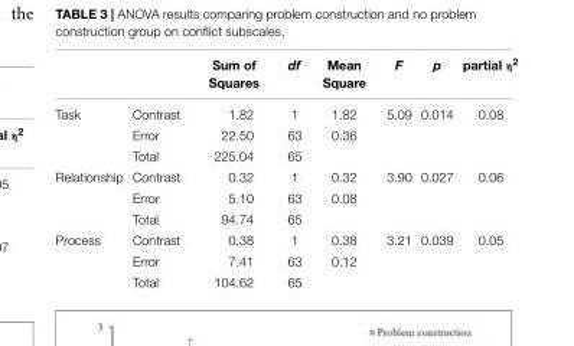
<table><thead><tr><td></td><td></td><td>Sum of Squares</td><td>df</td><td>Mean Square</td><td>F</td><td>p</td><td>partial η<sup>2</sup></td></tr></thead><tbody><tr><td rowspan="3">Task</td><td>Contrast</td><td>1.82</td><td>1</td><td>1.82</td><td>5.09</td><td>0.014</td><td>0.08</td></tr><tr><td>Error</td><td>22.50</td><td>63</td><td>0.36</td><td></td><td></td><td></td></tr><tr><td>Total</td><td>225.04</td><td>65</td><td></td><td></td><td></td><td></td></tr><tr><td rowspan="3">Relationship</td><td>Contrast</td><td>0.32</td><td>1</td><td>0.32</td><td>3.90</td><td>0.027</td><td>0.06</td></tr><tr><td>Error</td><td>5.10</td><td>63</td><td>0.08</td><td></td><td></td><td></td></tr><tr><td>Total</td><td>94.74</td><td>65</td><td></td><td></td><td></td><td></td></tr><tr><td rowspan="3">Process</td><td>Contrast</td><td>0.38</td><td>1</td><td>0.38</td><td>3.21</td><td>0.039</td><td>0.05</td></tr><tr><td>Error</td><td>7.41</td><td>63</td><td>0.12</td><td></td><td></td><td></td></tr><tr><td>Total</td><td>104.62</td><td>65</td><td></td><td></td><td></td><td></td></tr></tbody></table>